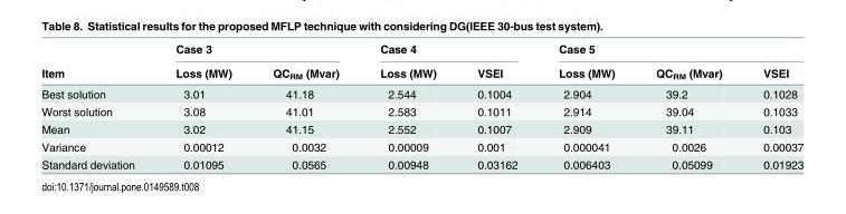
<table><thead><tr><td rowspan="2">Item</td><td colspan="2">Case 3</td><td colspan="2">Case 4</td><td colspan="3">Case 5</td></tr><tr><td>Loss (MW)</td><td>QC<sub>RM</sub> (Mvar)</td><td>Loss (MW)</td><td>VSEI</td><td>Loss (MW)</td><td>QC<sub>RM</sub> (Mvar)</td><td>VSEI</td></tr></thead><tbody><tr><td>Best solution</td><td>3.01</td><td>41.18</td><td>2.544</td><td>0.1004</td><td>2.904</td><td>39.2</td><td>0.1028</td></tr><tr><td>Worst solution</td><td>3.08</td><td>41.01</td><td>2.583</td><td>0.1011</td><td>2.914</td><td>39.04</td><td>0.1033</td></tr><tr><td>Mean</td><td>3.02</td><td>41.15</td><td>2.552</td><td>0.1007</td><td>2.909</td><td>39.11</td><td>0.103</td></tr><tr><td>Variance</td><td>0.00012</td><td>0.0032</td><td>0.00009</td><td>0.001</td><td>0.000041</td><td>0.0026</td><td>0.00037</td></tr><tr><td>Standard deviation</td><td>0.01095</td><td>0.0565</td><td>0.00948</td><td>0.03162</td><td>0.006403</td><td>0.05099</td><td>0.01923</td></tr></tbody></table>